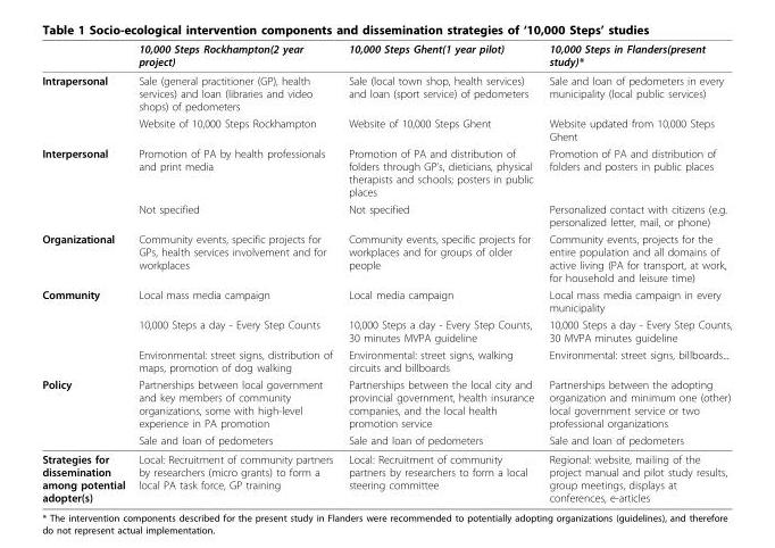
<table><thead><tr><td></td><td>10,000 Steps Rockhampton(2 year project)</td><td>10,000 Steps Ghent(1 year pilot)</td><td>10,000 Steps in Flanders(present study)*</td></tr></thead><tbody><tr><td rowspan="2">Intrapersonal</td><td>Sale (general practitioner (GP), health services) and loan (libraries and video shops) of pedometers</td><td>Sale (local town shop, health services) and loan (sport service) of pedometers</td><td>Sale and loan of pedometers in every municipality (local public services)</td></tr><tr><td>Website of 10,000 Steps Rockhampton</td><td>Website of 10,000 Steps Ghent</td><td>Website updated from 10,000 Steps Ghent</td></tr><tr><td rowspan="2">Interpersonal</td><td>Promotion of PA by health professionals and print media</td><td>Promotion of PA and distribution of folders through GP’s, dieticians, physical therapists and schools; posters in public places</td><td>Promotion of PA and distribution of folders and posters in public places</td></tr><tr><td>Not specified</td><td>Not specified</td><td>Personalized contact with citizens (e.g. personalized letter, mail, or phone)</td></tr><tr><td>Organizational</td><td>Community events, specific projects for GPs, health services involvement and for workplaces</td><td>Community events, specific projects for workplaces and for groups of older people</td><td>Community events, projects for the entire population and all domains of active living (PA for transport, at work, for household and leisure time)</td></tr><tr><td rowspan="3">Community</td><td>Local mass media campaign</td><td>Local media campaign</td><td>Local mass media campaign in every municipality</td></tr><tr><td>10,000 Steps a day - Every Step Counts</td><td>10,000 Steps a day - Every Step Counts, 30 minutes MVPA guideline</td><td>10,000 Steps a day - Every Step Counts, 30 MVPA minutes guideline</td></tr><tr><td>Environmental: street signs, distribution of maps, promotion of dog walking</td><td>Environmental: street signs, walking circuits and billboards</td><td>Environmental: street signs, billboards...</td></tr><tr><td rowspan="2">Policy</td><td>Partnerships between local government and key members of community organizations, some with high-level experience in PA promotion</td><td>Partnerships between the local city and provincial government, health insurance companies, and the local health promotion service</td><td>Partnerships between the adopting organization and minimum one (other) local government service or two professional organizations</td></tr><tr><td>Sale and loan of pedometers</td><td>Sale and loan of pedometers</td><td>Sale and loan of pedometers</td></tr><tr><td>Strategies for dissemination among potential adopter(s)</td><td>Local: Recruitment of community partners by researchers (micro grants) to form a local PA task force, GP training</td><td>Local: Recruitment of community partners by researchers to form a local steering committee</td><td>Regional: website, mailing of the project manual and pilot study results, group meetings, displays at conferences, e-articles</td></tr></tbody></table>